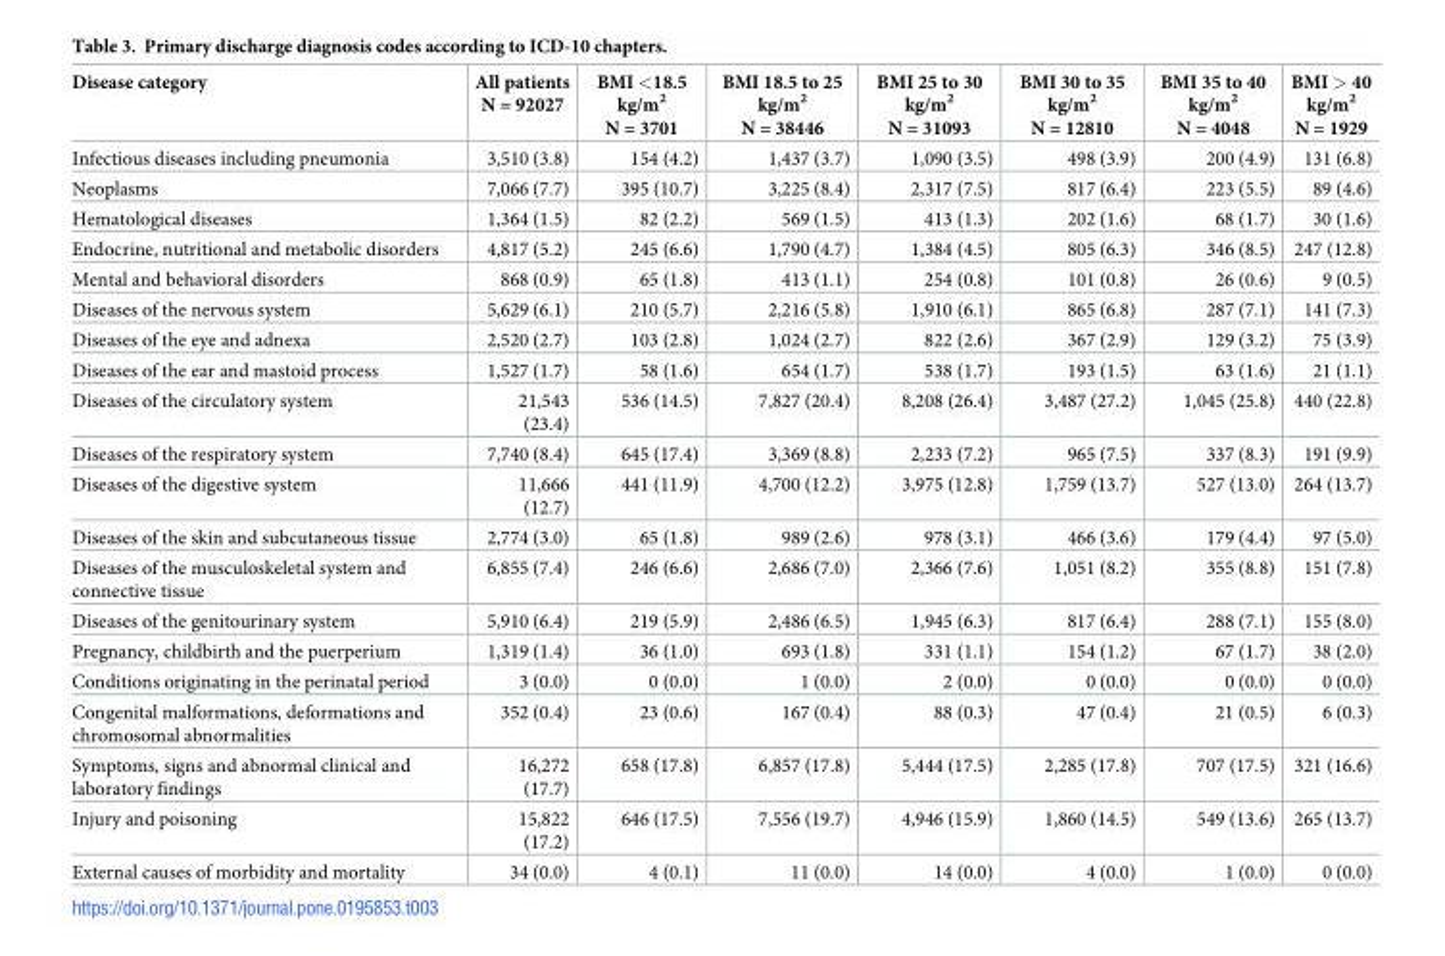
<table><thead><tr><td>Disease category</td><td>All patients N = 92027</td><td>BMI &lt;18.5 kg/m<sup>2</sup> N = 3701</td><td>BMI 18.5 to 25 kg/m<sup>2</sup> N = 38446</td><td>BMI 25 to 30 kg/m<sup>2</sup> N = 31093</td><td>BMI 30 to 35 kg/m<sup>2</sup> N = 12810</td><td>BMI 35 to 40 kg/m<sup>2</sup> N = 4048</td><td>BMI &gt; 40 kg/m<sup>2</sup> N = 1929</td></tr></thead><tbody><tr><td>Infectious diseases including pneumonia</td><td>3,510 (3.8)</td><td>154 (4.2)</td><td>1,437 (3.7)</td><td>1,090 (3.5)</td><td>498 (3.9)</td><td>200 (4.9)</td><td>131 (6.8)</td></tr><tr><td>Neoplasms</td><td>7,066 (7.7)</td><td>395 (10.7)</td><td>3,225 (8.4)</td><td>2,317 (7.5)</td><td>817 (6.4)</td><td>223 (5.5)</td><td>89 (4.6)</td></tr><tr><td>Hematological diseases</td><td>1,364 (1.5)</td><td>82 (2.2)</td><td>569 (1.5)</td><td>413 (1.3)</td><td>202 (1.6)</td><td>68 (1.7)</td><td>30 (1.6)</td></tr><tr><td>Endocrine, nutritional and metabolic disorders</td><td>4,817 (5.2)</td><td>245 (6.6)</td><td>1,790 (4.7)</td><td>1,384 (4.5)</td><td>805 (6.3)</td><td>346 (8.5)</td><td>247 (12.8)</td></tr><tr><td>Mental and behavioral disorders</td><td>868 (0.9)</td><td>65 (1.8)</td><td>413 (1.1)</td><td>254 (0.8)</td><td>101 (0.8)</td><td>26 (0.6)</td><td>9 (0.5)</td></tr><tr><td>Diseases of the nervous system</td><td>5,629 (6.1)</td><td>210 (5.7)</td><td>2,216 (5.8)</td><td>1,910 (6.1)</td><td>865 (6.8)</td><td>287 (7.1)</td><td>141 (7.3)</td></tr><tr><td>Diseases of the eye and adnexa</td><td>2,520 (2.7)</td><td>103 (2.8)</td><td>1,024 (2.7)</td><td>822 (2.6)</td><td>367 (2.9)</td><td>129 (3.2)</td><td>75 (3.9)</td></tr><tr><td>Diseases of the ear and mastoid process</td><td>1,527 (1.7)</td><td>58 (1.6)</td><td>654 (1.7)</td><td>538 (1.7)</td><td>193 (1.5)</td><td>63 (1.6)</td><td>21 (1.1)</td></tr><tr><td>Diseases of the circulatory system</td><td>21,543 (23.4)</td><td>536 (14.5)</td><td>7,827 (20.4)</td><td>8,208 (26.4)</td><td>3,487 (27.2)</td><td>1,045 (25.8)</td><td>440 (22.8)</td></tr><tr><td>Diseases of the respiratory system</td><td>7,740 (8.4)</td><td>645 (17.4)</td><td>3,369 (8.8)</td><td>2,233 (7.2)</td><td>965 (7.5)</td><td>337 (8.3)</td><td>191 (9.9)</td></tr><tr><td>Diseases of the digestive system</td><td>11,666 (12.7)</td><td>441 (11.9)</td><td>4,700 (12.2)</td><td>3,975 (12.8)</td><td>1,759 (13.7)</td><td>527 (13.0)</td><td>264 (13.7)</td></tr><tr><td>Diseases of the skin and subcutaneous tissue</td><td>2,774 (3.0)</td><td>65 (1.8)</td><td>989 (2.6)</td><td>978 (3.1)</td><td>466 (3.6)</td><td>179 (4.4)</td><td>97 (5.0)</td></tr><tr><td>Diseases of the musculoskeletal system and connective tissue</td><td>6,855 (7.4)</td><td>246 (6.6)</td><td>2,686 (7.0)</td><td>2,366 (7.6)</td><td>1,051 (8.2)</td><td>355 (8.8)</td><td>151 (7.8)</td></tr><tr><td>Diseases of the genitourinary system</td><td>5,910 (6.4)</td><td>219 (5.9)</td><td>2,486 (6.5)</td><td>1,945 (6.3)</td><td>817 (6.4)</td><td>288 (7.1)</td><td>155 (8.0)</td></tr><tr><td>Pregnancy, childbirth and the puerperium</td><td>1,319 (1.4)</td><td>36 (1.0)</td><td>693 (1.8)</td><td>331 (1.1)</td><td>154 (1.2)</td><td>67 (1.7)</td><td>38 (2.0)</td></tr><tr><td>Conditions originating in the perinatal period</td><td>3 (0.0)</td><td>0 (0.0)</td><td>1 (0.0)</td><td>2 (0.0)</td><td>0 (0.0)</td><td>0 (0.0)</td><td>0 (0.0)</td></tr><tr><td>Congenital malformations, deformations and chromosomal abnormalities</td><td>352 (0.4)</td><td>23 (0.6)</td><td>167 (0.4)</td><td>88 (0.3)</td><td>47 (0.4)</td><td>21 (0.5)</td><td>6 (0.3)</td></tr><tr><td>Symptoms, signs and abnormal clinical and laboratory findings</td><td>16,272 (17.7)</td><td>658 (17.8)</td><td>6,857 (17.8)</td><td>5,444 (17.5)</td><td>2,285 (17.8)</td><td>707 (17.5)</td><td>321 (16.6)</td></tr><tr><td>Injury and poisoning</td><td>15,822 (17.2)</td><td>646 (17.5)</td><td>7,556 (19.7)</td><td>4,946 (15.9)</td><td>1,860 (14.5)</td><td>549 (13.6)</td><td>265 (13.7)</td></tr><tr><td>External causes of morbidity and mortality</td><td>34 (0.0)</td><td>4 (0.1)</td><td>11 (0.0)</td><td>14 (0.0)</td><td>4 (0.0)</td><td>1 (0.0)</td><td>0 (0.0)</td></tr></tbody></table>